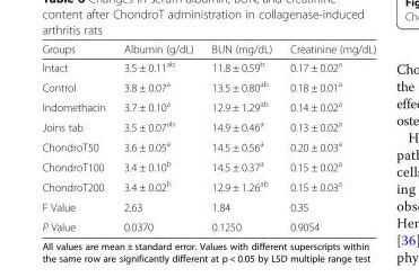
<table><thead><tr><td>Groups</td><td>Albumin (g/dL)</td><td>BUN (mg/dL)</td><td>Creatinine (mg/dL)</td></tr></thead><tbody><tr><td>Intact</td><td>3.5 ± 0.11<sup>ab</sup></td><td>11.8 ± 0.59<sup>b</sup></td><td>0.17 ± 0.02<sup>a</sup></td></tr><tr><td>Control</td><td>3.8 ± 0.07<sup>a</sup></td><td>13.5 ± 0.80<sup>ab</sup></td><td>0.18 ± 0.01<sup>a</sup></td></tr><tr><td>Indomethacin</td><td>3.7 ± 0.10<sup>a</sup></td><td>12.9 ± 1.29<sup>ab</sup></td><td>0.14 ± 0.02<sup>a</sup></td></tr><tr><td>Joins tab</td><td>3.5 ± 0.07<sup>ab</sup></td><td>14.9 ± 0.46<sup>a</sup></td><td>0.13 ± 0.02<sup>a</sup></td></tr><tr><td>ChondroT50</td><td>3.6 ± 0.05<sup>a</sup></td><td>14.5 ± 0.56<sup>a</sup></td><td>0.20 ± 0.03<sup>a</sup></td></tr><tr><td>ChondroT100</td><td>3.4 ± 0.10<sup>b</sup></td><td>14.5 ± 0.37<sup>a</sup></td><td>0.15 ± 0.02<sup>a</sup></td></tr><tr><td>ChondroT200</td><td>3.4 ± 0.02<sup>b</sup></td><td>12.9 ± 1.26<sup>ab</sup></td><td>0.15 ± 0.03<sup>a</sup></td></tr><tr><td>F Value</td><td>2.63</td><td>1.84</td><td>0.35</td></tr><tr><td>P Value</td><td>0.0370</td><td>0.1250</td><td>0.9054</td></tr></tbody></table>